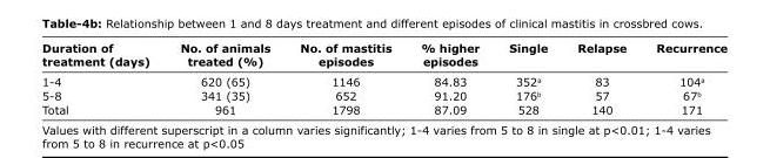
<table><thead><tr><td>Duration of treatment (days)</td><td>No. of animals treated (%)</td><td>No. of mastitis episodes</td><td>% higher episodes</td><td>Single</td><td>Relapse</td><td>Recurrence</td></tr></thead><tbody><tr><td>1-4</td><td>620 (65)</td><td>1146</td><td>84.83</td><td>352<sup>a</sup></td><td>83</td><td>104<sup>a</sup></td></tr><tr><td>5-8</td><td>341 (35)</td><td>652</td><td>91.20</td><td>176<sup>b</sup></td><td>57</td><td>67<sup>b</sup></td></tr><tr><td>Total</td><td>961</td><td>1798</td><td>87.09</td><td>528</td><td>140</td><td>171</td></tr></tbody></table>